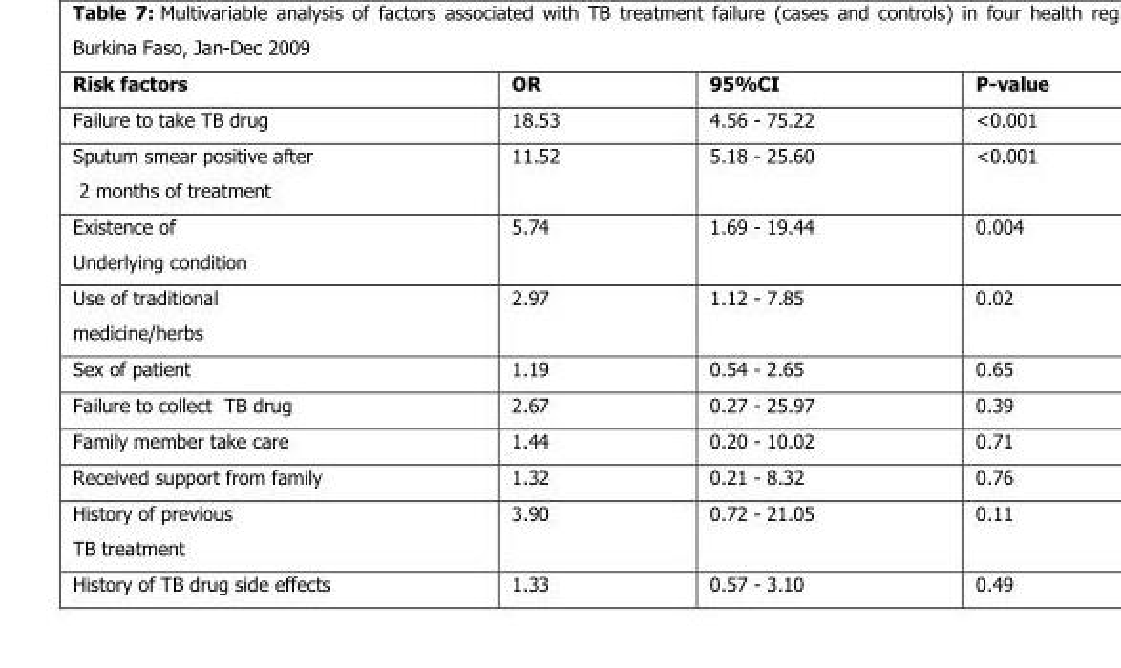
<table><thead><tr><td>Risk factors</td><td>OR</td><td>95%CI</td><td>P-value</td></tr></thead><tbody><tr><td>Failure to take TB drug</td><td>18.53</td><td>4.56 - 75.22</td><td>&lt;0.001</td></tr><tr><td>Sputum smear positive after 2 months of treatment</td><td>11.52</td><td>5.18 - 25.60</td><td>&lt;0.001</td></tr><tr><td>Existence of Underlying condition</td><td>5.74</td><td>1.69 - 19.44</td><td>0.004</td></tr><tr><td>Use of traditional medicine/herbs</td><td>2.97</td><td>1.12 - 7.85</td><td>0.02</td></tr><tr><td>Sex of patient</td><td>1.19</td><td>0.54 - 2.65</td><td>0.65</td></tr><tr><td>Failure to collect TB drug</td><td>2.67</td><td>0.27 - 25.97</td><td>0.39</td></tr><tr><td>Family member take care</td><td>1.44</td><td>0.20 - 10.02</td><td>0.71</td></tr><tr><td>Received support from family</td><td>1.32</td><td>0.21 - 8.32</td><td>0.76</td></tr><tr><td>History of previous TB treatment</td><td>3.90</td><td>0.72 - 21.05</td><td>0.11</td></tr><tr><td>History of TB drug side effects</td><td>1.33</td><td>0.57 - 3.10</td><td>0.49</td></tr></tbody></table>